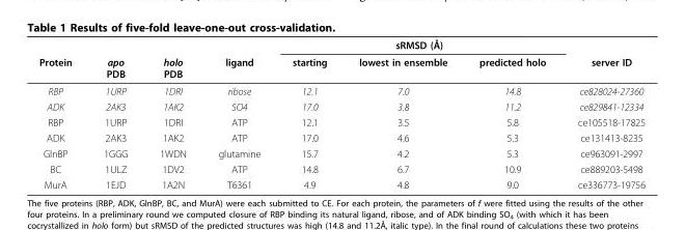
<table><thead><tr><td rowspan="2">Protein</td><td rowspan="2">apo PDB</td><td rowspan="2">holo PDB</td><td rowspan="2">ligand</td><td colspan="3">sRMSD (Å)</td><td rowspan="2">server ID</td></tr><tr><td>starting</td><td>lowest in ensemble</td><td>predicted holo</td></tr></thead><tbody><tr><td>RBP</td><td>1URP</td><td>1DRI</td><td>ribose</td><td>12.1</td><td>7.0</td><td>14.8</td><td>ce828024-27360</td></tr><tr><td>ADK</td><td>2AK3</td><td>1AK2</td><td>SO4</td><td>17.0</td><td>3.8</td><td>11.2</td><td>ce829841-12334</td></tr><tr><td>RBP</td><td>1URP</td><td>1DRI</td><td>ATP</td><td>12.1</td><td>3.5</td><td>5.8</td><td>ce105518-17825</td></tr><tr><td>ADK</td><td>2AK3</td><td>1AK2</td><td>ATP</td><td>17.0</td><td>4.6</td><td>5.3</td><td>ce131413-8235</td></tr><tr><td>GlnBP</td><td>1GGG</td><td>1WDN</td><td>glutamine</td><td>15.7</td><td>4.2</td><td>5.3</td><td>ce963091-2997</td></tr><tr><td>BC</td><td>1ULZ</td><td>1DV2</td><td>ATP</td><td>14.8</td><td>6.7</td><td>10.9</td><td>ce889203-5498</td></tr><tr><td>MurA</td><td>1EJD</td><td>1A2N</td><td>T6361</td><td>4.9</td><td>4.8</td><td>9.0</td><td>ce336773-19756</td></tr></tbody></table>